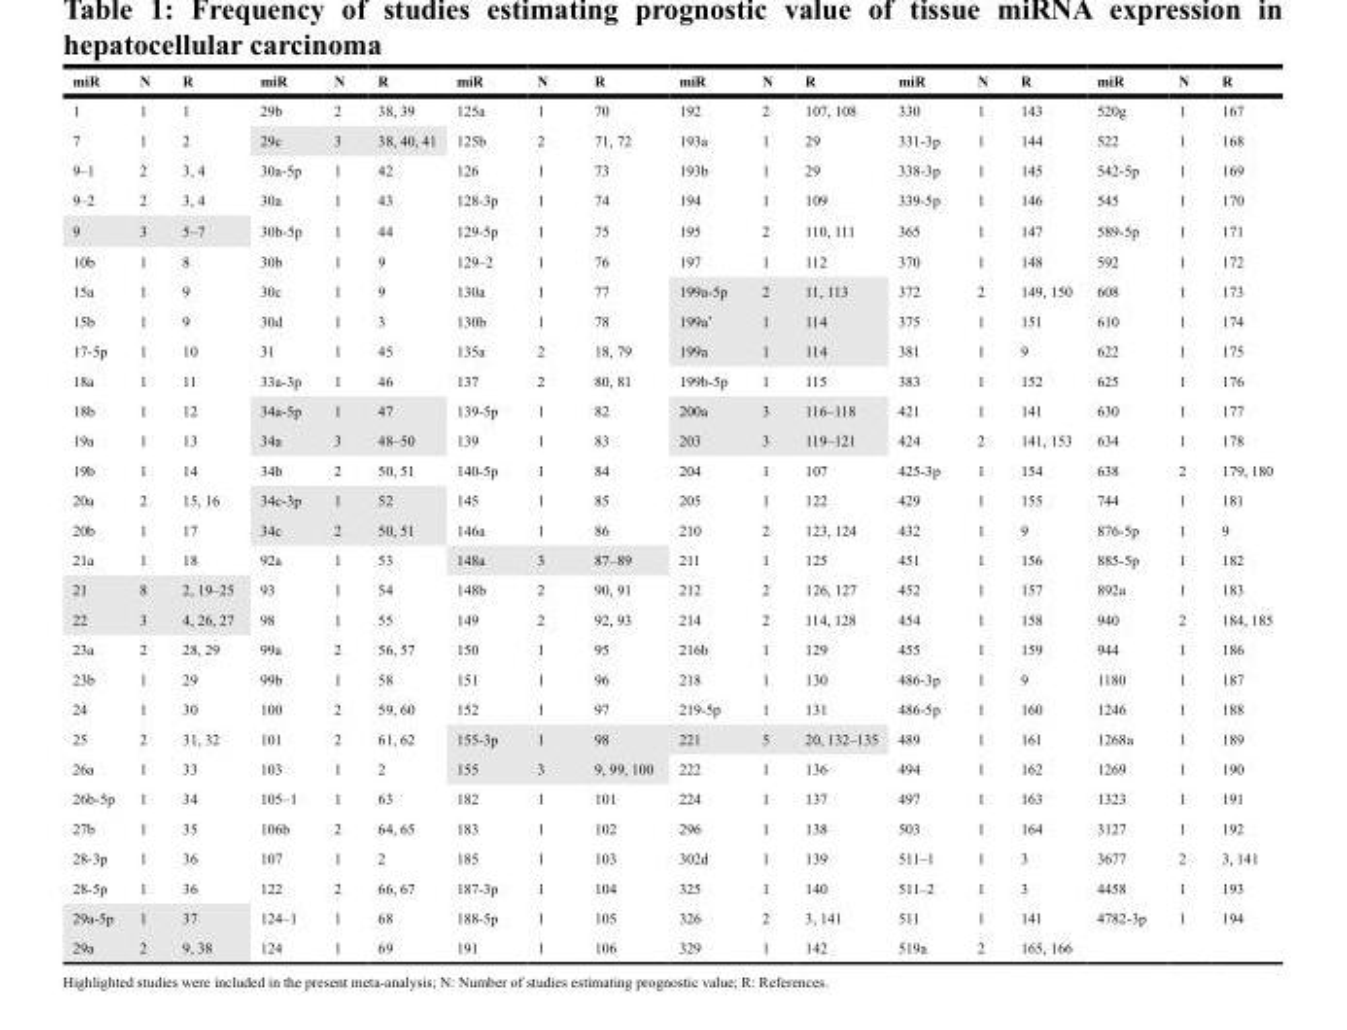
<table><thead><tr><td>miR</td><td>N</td><td>R</td><td>miR</td><td>N</td><td>R</td><td>miR</td><td>N</td><td>R</td><td>miR</td><td>N</td><td>R</td><td>miR</td><td>N</td><td>R</td><td>miR</td><td>N</td><td>R</td></tr></thead><tbody><tr><td>1</td><td>1</td><td>1</td><td>29b</td><td>2</td><td>38, 39</td><td>125a</td><td>1</td><td>70</td><td>192</td><td>2</td><td>107, 108</td><td>330</td><td>1</td><td>143</td><td>520g</td><td>1</td><td>167</td></tr><tr><td>7</td><td>1</td><td>2</td><td>29c</td><td>3</td><td>38, 40, 41</td><td>125b</td><td>2</td><td>71, 72</td><td>193a</td><td>1</td><td>29</td><td>331-3p</td><td>1</td><td>144</td><td>522</td><td>1</td><td>168</td></tr><tr><td>9–1</td><td>2</td><td>3, 4</td><td>30a-5p</td><td>1</td><td>42</td><td>126</td><td>1</td><td>73</td><td>193b</td><td>1</td><td>29</td><td>338-3p</td><td>1</td><td>145</td><td>542-5p</td><td>1</td><td>169</td></tr><tr><td>9–2</td><td>2</td><td>3, 4</td><td>30a</td><td>1</td><td>43</td><td>128-3p</td><td>1</td><td>74</td><td>194</td><td>1</td><td>109</td><td>339-5p</td><td>1</td><td>146</td><td>545</td><td>1</td><td>170</td></tr><tr><td>9</td><td>3</td><td>5–7</td><td>30b-5p</td><td>1</td><td>44</td><td>129-5p</td><td>1</td><td>75</td><td>195</td><td>2</td><td>110, 111</td><td>365</td><td>1</td><td>147</td><td>589-5p</td><td>1</td><td>171</td></tr><tr><td>10b</td><td>1</td><td>8</td><td>30b</td><td>1</td><td>9</td><td>129–2</td><td>1</td><td>76</td><td>197</td><td>1</td><td>112</td><td>370</td><td>1</td><td>148</td><td>592</td><td>1</td><td>172</td></tr><tr><td>15a</td><td>1</td><td>9</td><td>30c</td><td>1</td><td>9</td><td>130a</td><td>1</td><td>77</td><td>199a-5p</td><td>2</td><td>11, 113</td><td>372</td><td>2</td><td>149, 150</td><td>608</td><td>1</td><td>173</td></tr><tr><td>15b</td><td>1</td><td>9</td><td>30d</td><td>1</td><td>3</td><td>130b</td><td>1</td><td>78</td><td>199a*</td><td>1</td><td>114</td><td>375</td><td>1</td><td>151</td><td>610</td><td>1</td><td>174</td></tr><tr><td>17-5p</td><td>1</td><td>10</td><td>31</td><td>1</td><td>45</td><td>135a</td><td>2</td><td>18, 79</td><td>199a</td><td>1</td><td>114</td><td>381</td><td>1</td><td>9</td><td>622</td><td>1</td><td>175</td></tr><tr><td>18a</td><td>1</td><td>11</td><td>33a-3p</td><td>1</td><td>46</td><td>137</td><td>2</td><td>80, 81</td><td>199b-5p</td><td>1</td><td>115</td><td>383</td><td>1</td><td>152</td><td>625</td><td>1</td><td>176</td></tr><tr><td>18b</td><td>1</td><td>12</td><td>34a-5p</td><td>1</td><td>47</td><td>139-5p</td><td>1</td><td>82</td><td>200a</td><td>3</td><td>116–118</td><td>421</td><td>1</td><td>141</td><td>630</td><td>1</td><td>177</td></tr><tr><td>19a</td><td>1</td><td>13</td><td>34a</td><td>3</td><td>48–50</td><td>139</td><td>1</td><td>83</td><td>203</td><td>3</td><td>119–121</td><td>424</td><td>2</td><td>141, 153</td><td>634</td><td>1</td><td>178</td></tr><tr><td>19b</td><td>1</td><td>14</td><td>34b</td><td>2</td><td>50, 51</td><td>140-5p</td><td>1</td><td>84</td><td>204</td><td>1</td><td>107</td><td>425-3p</td><td>1</td><td>154</td><td>638</td><td>2</td><td>179, 180</td></tr><tr><td>20a</td><td>2</td><td>15, 16</td><td>34c-3p</td><td>1</td><td>52</td><td>145</td><td>1</td><td>85</td><td>205</td><td>1</td><td>122</td><td>429</td><td>1</td><td>155</td><td>744</td><td>1</td><td>181</td></tr><tr><td>20b</td><td>1</td><td>17</td><td>34c</td><td>2</td><td>50, 51</td><td>146a</td><td>1</td><td>86</td><td>210</td><td>2</td><td>123, 124</td><td>432</td><td>1</td><td>9</td><td>876-5p</td><td>1</td><td>9</td></tr><tr><td>21a</td><td>1</td><td>18</td><td>92a</td><td>1</td><td>53</td><td>148a</td><td>3</td><td>87–89</td><td>211</td><td>1</td><td>125</td><td>451</td><td>1</td><td>156</td><td>885-5p</td><td>1</td><td>182</td></tr><tr><td>21</td><td>8</td><td>2, 19–25</td><td>93</td><td>1</td><td>54</td><td>148b</td><td>2</td><td>90, 91</td><td>212</td><td>2</td><td>126, 127</td><td>452</td><td>1</td><td>157</td><td>892a</td><td>1</td><td>183</td></tr><tr><td>22</td><td>3</td><td>4, 26, 27</td><td>98</td><td>1</td><td>55</td><td>149</td><td>2</td><td>92, 93</td><td>214</td><td>2</td><td>114, 128</td><td>454</td><td>1</td><td>158</td><td>940</td><td>2</td><td>184, 185</td></tr><tr><td>23a</td><td>2</td><td>28, 29</td><td>99a</td><td>2</td><td>56, 57</td><td>150</td><td>1</td><td>95</td><td>216b</td><td>1</td><td>129</td><td>455</td><td>1</td><td>159</td><td>944</td><td>1</td><td>186</td></tr><tr><td>23b</td><td>1</td><td>29</td><td>99b</td><td>1</td><td>58</td><td>151</td><td>1</td><td>96</td><td>218</td><td>1</td><td>130</td><td>486-3p</td><td>1</td><td>9</td><td>1180</td><td>1</td><td>187</td></tr><tr><td>24</td><td>1</td><td>30</td><td>100</td><td>2</td><td>59, 60</td><td>152</td><td>1</td><td>97</td><td>219-5p</td><td>1</td><td>131</td><td>486-5p</td><td>1</td><td>160</td><td>1246</td><td>1</td><td>188</td></tr><tr><td>25</td><td>2</td><td>31, 32</td><td>101</td><td>2</td><td>61, 62</td><td>155-3p</td><td>1</td><td>98</td><td>221</td><td>5</td><td>20, 132–135</td><td>489</td><td>1</td><td>161</td><td>1268a</td><td>1</td><td>189</td></tr><tr><td>26a</td><td>1</td><td>33</td><td>103</td><td>1</td><td>2</td><td>155</td><td>3</td><td>9, 99, 100</td><td>222</td><td>1</td><td>136</td><td>494</td><td>1</td><td>162</td><td>1269</td><td>1</td><td>190</td></tr><tr><td>26b-5p</td><td>1</td><td>34</td><td>105–1</td><td>1</td><td>63</td><td>182</td><td>1</td><td>101</td><td>224</td><td>1</td><td>137</td><td>497</td><td>1</td><td>163</td><td>1323</td><td>1</td><td>191</td></tr><tr><td>27b</td><td>1</td><td>35</td><td>106b</td><td>2</td><td>64, 65</td><td>183</td><td>1</td><td>102</td><td>296</td><td>1</td><td>138</td><td>503</td><td>1</td><td>164</td><td>3127</td><td>1</td><td>192</td></tr><tr><td>28-3p</td><td>1</td><td>36</td><td>107</td><td>1</td><td>2</td><td>185</td><td>1</td><td>103</td><td>302d</td><td>1</td><td>139</td><td>511–1</td><td>1</td><td>3</td><td>3677</td><td>2</td><td>3, 141</td></tr><tr><td>28-5p</td><td>1</td><td>36</td><td>122</td><td>2</td><td>66, 67</td><td>187-3p</td><td>1</td><td>104</td><td>325</td><td>1</td><td>140</td><td>511–2</td><td>1</td><td>3</td><td>4458</td><td>1</td><td>193</td></tr><tr><td>29a-5p</td><td>1</td><td>37</td><td>124–1</td><td>1</td><td>68</td><td>188-5p</td><td>1</td><td>105</td><td>326</td><td>2</td><td>3, 141</td><td>511</td><td>1</td><td>141</td><td>4782-3p</td><td>1</td><td>194</td></tr><tr><td>29a</td><td>2</td><td>9, 38</td><td>124</td><td>1</td><td>69</td><td>191</td><td>1</td><td>106</td><td>329</td><td>1</td><td>142</td><td>519a</td><td>2</td><td>165, 166</td><td></td><td></td><td></td></tr></tbody></table>